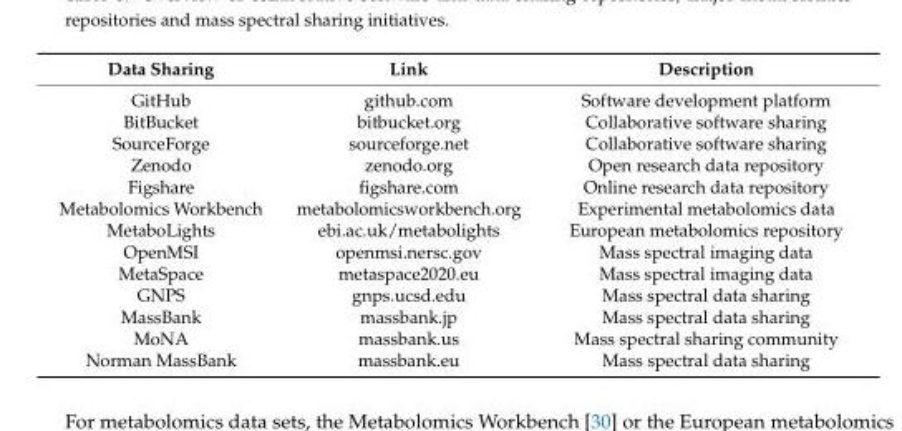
<table><thead><tr><td>Data Sharing</td><td>Link</td><td>Description</td></tr></thead><tbody><tr><td>GitHub</td><td>github.com</td><td>Software development platform</td></tr><tr><td>BitBucket</td><td>bitbucket.org</td><td>Collaborative software sharing</td></tr><tr><td>SourceForge</td><td>sourceforge.net</td><td>Collaborative software sharing</td></tr><tr><td>Zenodo</td><td>zenodo.org</td><td>Open research data repository</td></tr><tr><td>Figshare</td><td>figshare.com</td><td>Online research data repository</td></tr><tr><td>Metabolomics Workbench</td><td>metabolomicsworkbench.org</td><td>Experimental metabolomics data</td></tr><tr><td>MetaboLights</td><td>ebi.ac.uk/metabolights</td><td>European metabolomics repository</td></tr><tr><td>OpenMSI</td><td>openmsi.nersc.gov</td><td>Mass spectral imaging data</td></tr><tr><td>MetaSpace</td><td>metaspace2020.eu</td><td>Mass spectral imaging data</td></tr><tr><td>GNPS</td><td>gnps.ucsd.edu</td><td>Mass spectral data sharing</td></tr><tr><td>MassBank</td><td>massbank.jp</td><td>Mass spectral data sharing</td></tr><tr><td>MoNA</td><td>massbank.us</td><td>Mass spectral sharing community</td></tr><tr><td>Norman MassBank</td><td>massbank.eu</td><td>Mass spectral data sharing</td></tr></tbody></table>